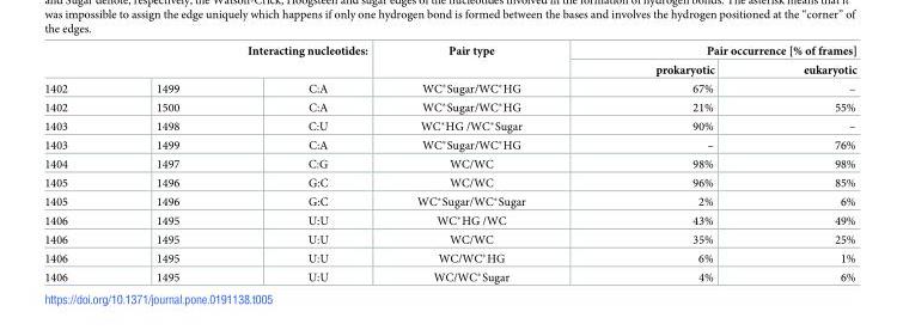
<table><thead><tr><td rowspan="2" colspan="3">Interacting nucleotides:</td><td rowspan="3">Pair type WC*Sugar/WC*HG</td><td colspan="2">Pair occurrence [% of frames]</td></tr><tr><td rowspan="2">prokaryotic 67%</td><td rowspan="2">eukaryotic –</td></tr><tr><td>1402</td><td>1499</td><td>C:A</td></tr></thead><tbody><tr><td>1402</td><td>1500</td><td>C:A</td><td>WC*Sugar/WC*HG</td><td>21%</td><td>55%</td></tr><tr><td>1403</td><td>1498</td><td>C:U</td><td>WC*HG /WC*Sugar</td><td>90%</td><td>–</td></tr><tr><td>1403</td><td>1499</td><td>C:A</td><td>WC*Sugar/WC*HG</td><td>–</td><td>76%</td></tr><tr><td>1404</td><td>1497</td><td>C:G</td><td>WC/WC</td><td>98%</td><td>98%</td></tr><tr><td>1405</td><td>1496</td><td>G:C</td><td>WC/WC</td><td>96%</td><td>85%</td></tr><tr><td>1405</td><td>1496</td><td>G:C</td><td>WC*Sugar/WC*Sugar</td><td>2%</td><td>6%</td></tr><tr><td>1406</td><td>1495</td><td>U:U</td><td>WC*HG /WC</td><td>43%</td><td>49%</td></tr><tr><td>1406</td><td>1495</td><td>U:U</td><td>WC/WC</td><td>35%</td><td>25%</td></tr><tr><td>1406</td><td>1495</td><td>U:U</td><td>WC/WC*HG</td><td>6%</td><td>1%</td></tr><tr><td>1406</td><td>1495</td><td>U:U</td><td>WC/WC*Sugar</td><td>4%</td><td>6%</td></tr></tbody></table>